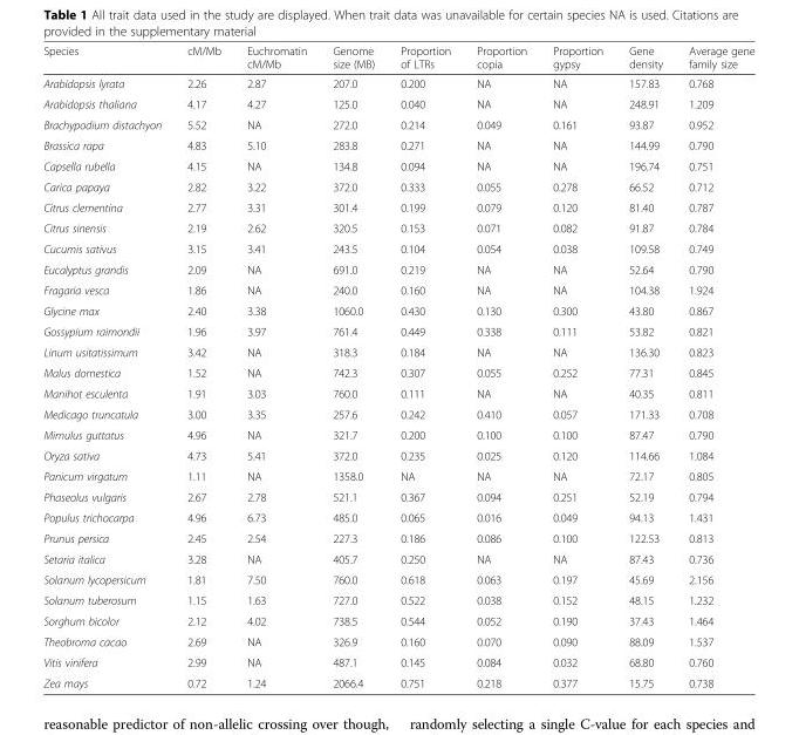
<table><thead><tr><td>Species</td><td>cM/Mb</td><td>Euchromatin cM/Mb</td><td>Genome size (MB)</td><td>Proportion of LTRs</td><td>Proportion copia</td><td>Proportion gypsy</td><td>Gene density</td><td>Average gene family size</td></tr></thead><tbody><tr><td>Arabidopsis lyrata</td><td>2.26</td><td>2.87</td><td>207.0</td><td>0.200</td><td>NA</td><td>NA</td><td>157.83</td><td>0.768</td></tr><tr><td>Arabidopsis thaliana</td><td>4.17</td><td>4.27</td><td>125.0</td><td>0.040</td><td>NA</td><td>NA</td><td>248.91</td><td>1.209</td></tr><tr><td>Brachypodium distachyon</td><td>5.52</td><td>NA</td><td>272.0</td><td>0.214</td><td>0.049</td><td>0.161</td><td>93.87</td><td>0.952</td></tr><tr><td>Brassica rapa</td><td>4.83</td><td>5.10</td><td>283.8</td><td>0.271</td><td>NA</td><td>NA</td><td>144.99</td><td>0.790</td></tr><tr><td>Capsella rubella</td><td>4.15</td><td>NA</td><td>134.8</td><td>0.094</td><td>NA</td><td>NA</td><td>196.74</td><td>0.751</td></tr><tr><td>Carica papaya</td><td>2.82</td><td>3.22</td><td>372.0</td><td>0.333</td><td>0.055</td><td>0.278</td><td>66.52</td><td>0.712</td></tr><tr><td>Citrus clementina</td><td>2.77</td><td>3.31</td><td>301.4</td><td>0.199</td><td>0.079</td><td>0.120</td><td>81.40</td><td>0.787</td></tr><tr><td>Citrus sinensis</td><td>2.19</td><td>2.62</td><td>320.5</td><td>0.153</td><td>0.071</td><td>0.082</td><td>91.87</td><td>0.784</td></tr><tr><td>Cucumis sativus</td><td>3.15</td><td>3.41</td><td>243.5</td><td>0.104</td><td>0.054</td><td>0.038</td><td>109.58</td><td>0.749</td></tr><tr><td>Eucalyptus grandis</td><td>2.09</td><td>NA</td><td>691.0</td><td>0.219</td><td>NA</td><td>NA</td><td>52.64</td><td>0.790</td></tr><tr><td>Fragaria vesca</td><td>1.86</td><td>NA</td><td>240.0</td><td>0.160</td><td>NA</td><td>NA</td><td>104.38</td><td>1.924</td></tr><tr><td>Glycine max</td><td>2.40</td><td>3.38</td><td>1060.0</td><td>0.430</td><td>0.130</td><td>0.300</td><td>43.80</td><td>0.867</td></tr><tr><td>Gossypium raimondii</td><td>1.96</td><td>3.97</td><td>761.4</td><td>0.449</td><td>0.338</td><td>0.111</td><td>53.82</td><td>0.821</td></tr><tr><td>Linum usitatissimum</td><td>3.42</td><td>NA</td><td>318.3</td><td>0.184</td><td>NA</td><td>NA</td><td>136.30</td><td>0.823</td></tr><tr><td>Malus domestica</td><td>1.52</td><td>NA</td><td>742.3</td><td>0.307</td><td>0.055</td><td>0.252</td><td>77.31</td><td>0.845</td></tr><tr><td>Manihot esculenta</td><td>1.91</td><td>3.03</td><td>760.0</td><td>0.111</td><td>NA</td><td>NA</td><td>40.35</td><td>0.811</td></tr><tr><td>Medicago truncatula</td><td>3.00</td><td>3.35</td><td>257.6</td><td>0.242</td><td>0.410</td><td>0.057</td><td>171.33</td><td>0.708</td></tr><tr><td>Mimulus guttatus</td><td>4.96</td><td>NA</td><td>321.7</td><td>0.200</td><td>0.100</td><td>0.100</td><td>87.47</td><td>0.790</td></tr><tr><td>Oryza sativa</td><td>4.73</td><td>5.41</td><td>372.0</td><td>0.235</td><td>0.025</td><td>0.120</td><td>114.66</td><td>1.084</td></tr><tr><td>Panicum virgatum</td><td>1.11</td><td>NA</td><td>1358.0</td><td>NA</td><td>NA</td><td>NA</td><td>72.17</td><td>0.805</td></tr><tr><td>Phaseolus vulgaris</td><td>2.67</td><td>2.78</td><td>521.1</td><td>0.367</td><td>0.094</td><td>0.251</td><td>52.19</td><td>0.794</td></tr><tr><td>Populus trichocarpa</td><td>4.96</td><td>6.73</td><td>485.0</td><td>0.065</td><td>0.016</td><td>0.049</td><td>94.13</td><td>1.431</td></tr><tr><td>Prunus persica</td><td>2.45</td><td>2.54</td><td>227.3</td><td>0.186</td><td>0.086</td><td>0.100</td><td>122.53</td><td>0.813</td></tr><tr><td>Setaria italica</td><td>3.28</td><td>NA</td><td>405.7</td><td>0.250</td><td>NA</td><td>NA</td><td>87.43</td><td>0.736</td></tr><tr><td>Solanum lycopersicum</td><td>1.81</td><td>7.50</td><td>760.0</td><td>0.618</td><td>0.063</td><td>0.197</td><td>45.69</td><td>2.156</td></tr><tr><td>Solanum tuberosum</td><td>1.15</td><td>1.63</td><td>727.0</td><td>0.522</td><td>0.038</td><td>0.152</td><td>48.15</td><td>1.232</td></tr><tr><td>Sorghum bicolor</td><td>2.12</td><td>4.02</td><td>738.5</td><td>0.544</td><td>0.052</td><td>0.190</td><td>37.43</td><td>1.464</td></tr><tr><td>Theobroma cacao</td><td>2.69</td><td>NA</td><td>326.9</td><td>0.160</td><td>0.070</td><td>0.090</td><td>88.09</td><td>1.537</td></tr><tr><td>Vitis vinifera</td><td>2.99</td><td>NA</td><td>487.1</td><td>0.145</td><td>0.084</td><td>0.032</td><td>68.80</td><td>0.760</td></tr><tr><td>Zea mays</td><td>0.72</td><td>1.24</td><td>2066.4</td><td>0.751</td><td>0.218</td><td>0.377</td><td>15.75</td><td>0.738</td></tr></tbody></table>